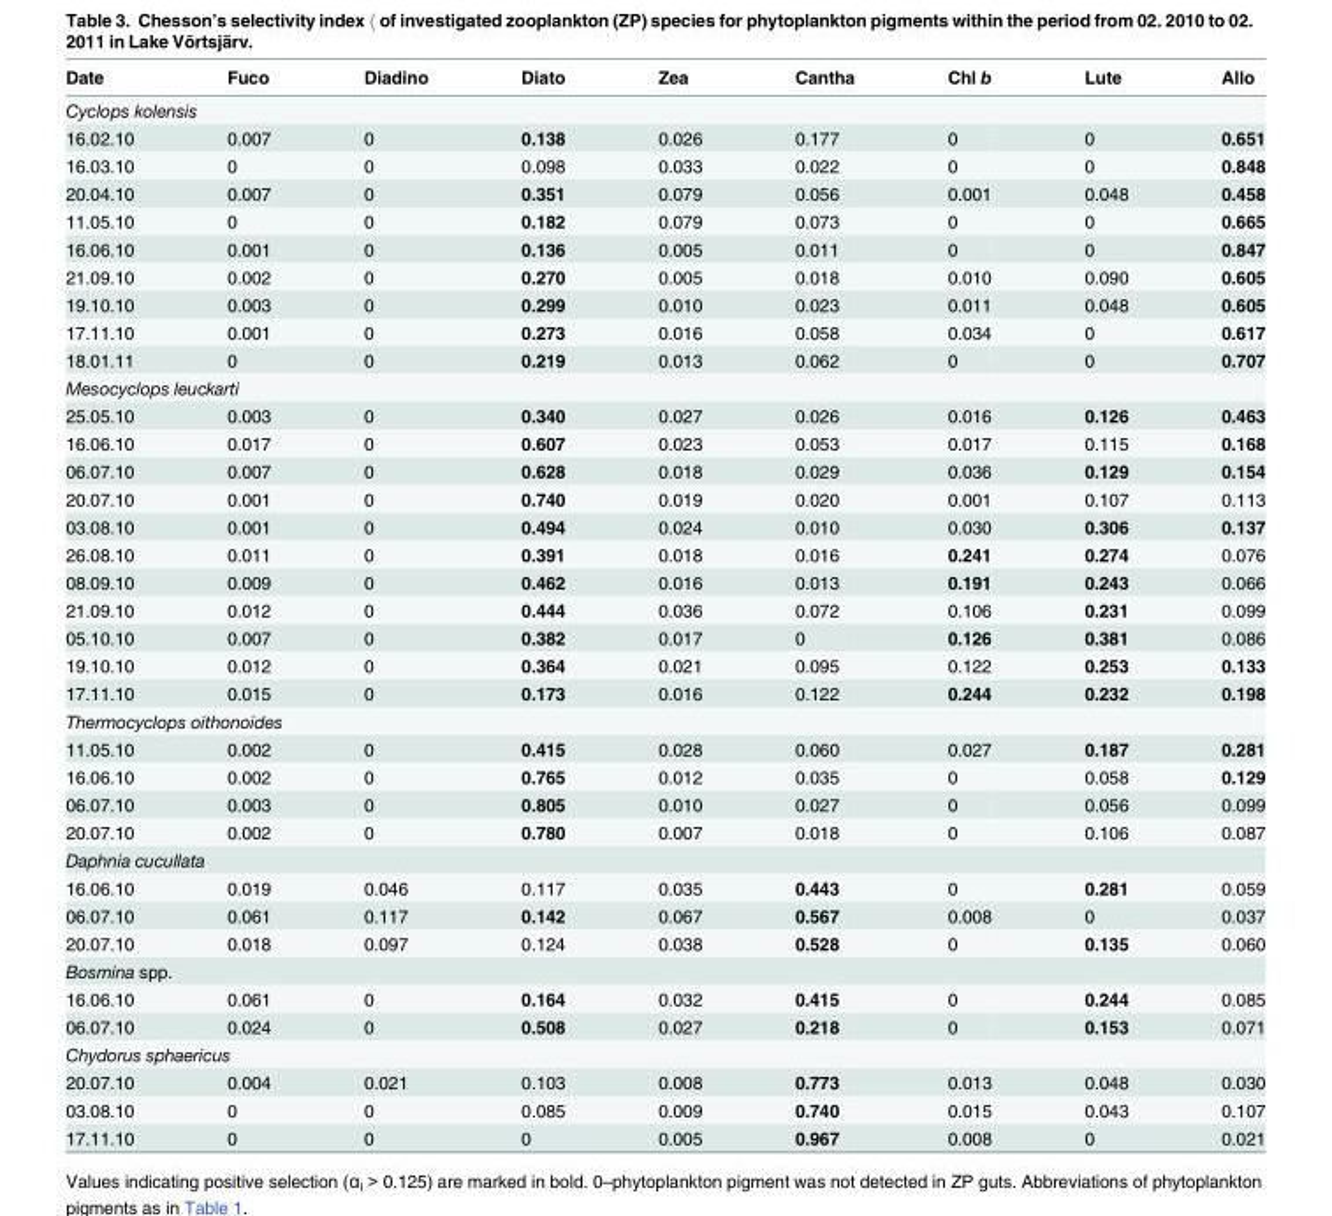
<table><thead><tr><td>Date</td><td>Fuco</td><td>Diadino</td><td>Diato</td><td>Zea</td><td>Cantha</td><td>Chl b</td><td>Lute</td><td>Allo</td></tr></thead><tbody><tr><td colspan="9">Cyclops kolensis</td></tr><tr><td>16.02.10</td><td>0.007</td><td>0</td><td>0.138</td><td>0.026</td><td>0.177</td><td>0</td><td>0</td><td>0.651</td></tr><tr><td>16.03.10</td><td>0</td><td>0</td><td>0.098</td><td>0.033</td><td>0.022</td><td>0</td><td>0</td><td>0.848</td></tr><tr><td>20.04.10</td><td>0.007</td><td>0</td><td>0.351</td><td>0.079</td><td>0.056</td><td>0.001</td><td>0.048</td><td>0.458</td></tr><tr><td>11.05.10</td><td>0</td><td>0</td><td>0.182</td><td>0.079</td><td>0.073</td><td>0</td><td>0</td><td>0.665</td></tr><tr><td>16.06.10</td><td>0.001</td><td>0</td><td>0.136</td><td>0.005</td><td>0.011</td><td>0</td><td>0</td><td>0.847</td></tr><tr><td>21.09.10</td><td>0.002</td><td>0</td><td>0.270</td><td>0.005</td><td>0.018</td><td>0.010</td><td>0.090</td><td>0.605</td></tr><tr><td>19.10.10</td><td>0.003</td><td>0</td><td>0.299</td><td>0.010</td><td>0.023</td><td>0.011</td><td>0.048</td><td>0.605</td></tr><tr><td>17.11.10</td><td>0.001</td><td>0</td><td>0.273</td><td>0.016</td><td>0.058</td><td>0.034</td><td>0</td><td>0.617</td></tr><tr><td>18.01.11</td><td>0</td><td>0</td><td>0.219</td><td>0.013</td><td>0.062</td><td>0</td><td>0</td><td>0.707</td></tr><tr><td colspan="9">Mesocyclops leuckarti</td></tr><tr><td>25.05.10</td><td>0.003</td><td>0</td><td>0.340</td><td>0.027</td><td>0.026</td><td>0.016</td><td>0.126</td><td>0.463</td></tr><tr><td>16.06.10</td><td>0.017</td><td>0</td><td>0.607</td><td>0.023</td><td>0.053</td><td>0.017</td><td>0.115</td><td>0.168</td></tr><tr><td>06.07.10</td><td>0.007</td><td>0</td><td>0.628</td><td>0.018</td><td>0.029</td><td>0.036</td><td>0.129</td><td>0.154</td></tr><tr><td>20.07.10</td><td>0.001</td><td>0</td><td>0.740</td><td>0.019</td><td>0.020</td><td>0.001</td><td>0.107</td><td>0.113</td></tr><tr><td>03.08.10</td><td>0.001</td><td>0</td><td>0.494</td><td>0.024</td><td>0.010</td><td>0.030</td><td>0.306</td><td>0.137</td></tr><tr><td>26.08.10</td><td>0.011</td><td>0</td><td>0.391</td><td>0.018</td><td>0.016</td><td>0.241</td><td>0.274</td><td>0.076</td></tr><tr><td>08.09.10</td><td>0.009</td><td>0</td><td>0.462</td><td>0.016</td><td>0.013</td><td>0.191</td><td>0.243</td><td>0.066</td></tr><tr><td>21.09.10</td><td>0.012</td><td>0</td><td>0.444</td><td>0.036</td><td>0.072</td><td>0.106</td><td>0.231</td><td>0.099</td></tr><tr><td>05.10.10</td><td>0.007</td><td>0</td><td>0.382</td><td>0.017</td><td>0</td><td>0.126</td><td>0.381</td><td>0.086</td></tr><tr><td>19.10.10</td><td>0.012</td><td>0</td><td>0.364</td><td>0.021</td><td>0.095</td><td>0.122</td><td>0.253</td><td>0.133</td></tr><tr><td>17.11.10</td><td>0.015</td><td>0</td><td>0.173</td><td>0.016</td><td>0.122</td><td>0.244</td><td>0.232</td><td>0.198</td></tr><tr><td colspan="9">Thermocyclops oithonoides</td></tr><tr><td>11.05.10</td><td>0.002</td><td>0</td><td>0.415</td><td>0.028</td><td>0.060</td><td>0.027</td><td>0.187</td><td>0.281</td></tr><tr><td>16.06.10</td><td>0.002</td><td>0</td><td>0.765</td><td>0.012</td><td>0.035</td><td>0</td><td>0.058</td><td>0.129</td></tr><tr><td>06.07.10</td><td>0.003</td><td>0</td><td>0.805</td><td>0.010</td><td>0.027</td><td>0</td><td>0.056</td><td>0.099</td></tr><tr><td>20.07.10</td><td>0.002</td><td>0</td><td>0.780</td><td>0.007</td><td>0.018</td><td>0</td><td>0.106</td><td>0.087</td></tr><tr><td colspan="9">Daphnia cucullata</td></tr><tr><td>16.06.10</td><td>0.019</td><td>0.046</td><td>0.117</td><td>0.035</td><td>0.443</td><td>0</td><td>0.281</td><td>0.059</td></tr><tr><td>06.07.10</td><td>0.061</td><td>0.117</td><td>0.142</td><td>0.067</td><td>0.567</td><td>0.008</td><td>0</td><td>0.037</td></tr><tr><td>20.07.10</td><td>0.018</td><td>0.097</td><td>0.124</td><td>0.038</td><td>0.528</td><td>0</td><td>0.135</td><td>0.060</td></tr><tr><td colspan="9">Bosmina spp.</td></tr><tr><td>16.06.10</td><td>0.061</td><td>0</td><td>0.164</td><td>0.032</td><td>0.415</td><td>0</td><td>0.244</td><td>0.085</td></tr><tr><td>06.07.10</td><td>0.024</td><td>0</td><td>0.508</td><td>0.027</td><td>0.218</td><td>0</td><td>0.153</td><td>0.071</td></tr><tr><td colspan="9">Chydorus sphaericus</td></tr><tr><td>20.07.10</td><td>0.004</td><td>0.021</td><td>0.103</td><td>0.008</td><td>0.773</td><td>0.013</td><td>0.048</td><td>0.030</td></tr><tr><td>03.08.10</td><td>0</td><td>0</td><td>0.085</td><td>0.009</td><td>0.740</td><td>0.015</td><td>0.043</td><td>0.107</td></tr><tr><td>17.11.10</td><td>0</td><td>0</td><td>0</td><td>0.005</td><td>0.967</td><td>0.008</td><td>0</td><td>0.021</td></tr></tbody></table>